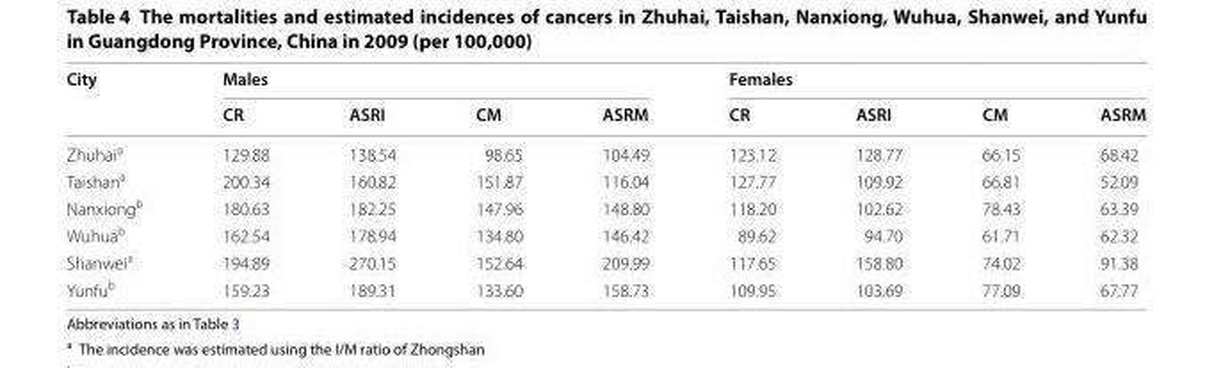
<table><thead><tr><td rowspan="2">City</td><td colspan="4">Males</td><td colspan="4">Females</td></tr><tr><td>CR</td><td>ASRI</td><td>CM</td><td>ASRM</td><td>CR</td><td>ASRI</td><td>CM</td><td>ASRM</td></tr></thead><tbody><tr><td>Zhuhai<sup>a</sup></td><td>129.88</td><td>138.54</td><td>98.65</td><td>104.49</td><td>123.12</td><td>128.77</td><td>66.15</td><td>68.42</td></tr><tr><td>Taishan<sup>a</sup></td><td>200.34</td><td>160.82</td><td>151.87</td><td>116.04</td><td>127.77</td><td>109.92</td><td>66.81</td><td>52.09</td></tr><tr><td>Nanxiong<sup>b</sup></td><td>180.63</td><td>182.25</td><td>147.96</td><td>148.80</td><td>118.20</td><td>102.62</td><td>78.43</td><td>63.39</td></tr><tr><td>Wuhua<sup>b</sup></td><td>162.54</td><td>178.94</td><td>134.80</td><td>146.42</td><td>89.62</td><td>94.70</td><td>61.71</td><td>62.32</td></tr><tr><td>Shanwei<sup>a</sup></td><td>194.89</td><td>270.15</td><td>152.64</td><td>209.99</td><td>117.65</td><td>158.80</td><td>74.02</td><td>91.38</td></tr><tr><td>Yunfu<sup>b</sup></td><td>159.23</td><td>189.31</td><td>133.60</td><td>158.73</td><td>109.95</td><td>103.69</td><td>77.09</td><td>67.77</td></tr></tbody></table>